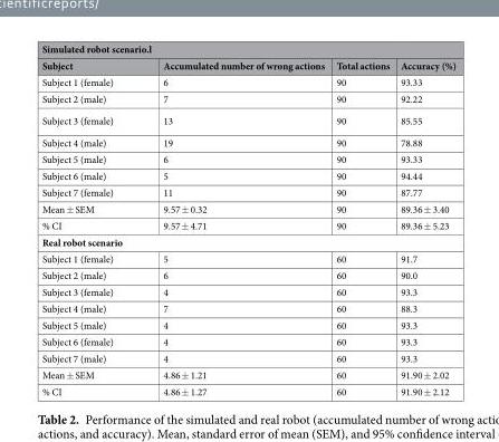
<table><thead><tr><td colspan="4">Simulated robot scenario.l</td></tr><tr><td>Subject</td><td>Accumulated number of wrong actions</td><td>Total actions</td><td>Accuracy (%)</td></tr></thead><tbody><tr><td>Subject 1 (female)</td><td>6</td><td>90</td><td>93.33</td></tr><tr><td>Subject 2 (male)</td><td>7</td><td>90</td><td>92.22</td></tr><tr><td>Subject 3 (female)</td><td>13</td><td>90</td><td>85.55</td></tr><tr><td>Subject 4 (male)</td><td>19</td><td>90</td><td>78.88</td></tr><tr><td>Subject 5 (male)</td><td>6</td><td>90</td><td>93.33</td></tr><tr><td>Subject 6 (male)</td><td>5</td><td>90</td><td>94.44</td></tr><tr><td>Subject 7 (female)</td><td>11</td><td>90</td><td>87.77</td></tr><tr><td>Mean ± SEM</td><td>9.57 ± 0.32</td><td>90</td><td>89.36 ± 3.40</td></tr><tr><td>% CI</td><td>9.57 ± 4.71</td><td>90</td><td>89.36 ± 5.23</td></tr><tr><td colspan="4">Real robot scenario</td></tr><tr><td>Subject 1 (female)</td><td>5</td><td>60</td><td>91.7</td></tr><tr><td>Subject 2 (male)</td><td>6</td><td>60</td><td>90.0</td></tr><tr><td>Subject 3 (female)</td><td>4</td><td>60</td><td>93.3</td></tr><tr><td>Subject 4 (male)</td><td>7</td><td>60</td><td>88.3</td></tr><tr><td>Subject 5 (male)</td><td>4</td><td>60</td><td>93.3</td></tr><tr><td>Subject 6 (female)</td><td>4</td><td>60</td><td>93.3</td></tr><tr><td>Subject 7 (male)</td><td>4</td><td>60</td><td>93.3</td></tr><tr><td>Mean ± SEM</td><td>4.86 ± 1.21</td><td>60</td><td>91.90 ± 2.02</td></tr><tr><td>% CI</td><td>4.86 ± 1.27</td><td>60</td><td>91.90 ± 2.12</td></tr></tbody></table>